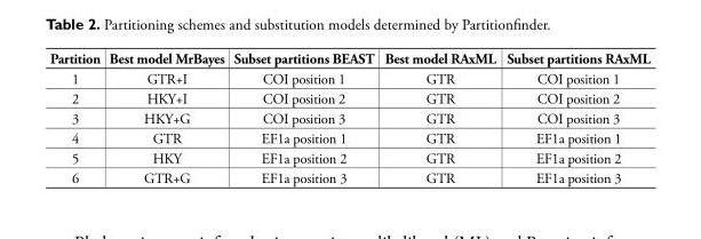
<table><thead><tr><td>Partition</td><td>Best model MrBayes</td><td>Subset partitions BEAST</td><td>Best model RAxML</td><td>Subset partitions RAxML</td></tr></thead><tbody><tr><td>1</td><td>GTR+I</td><td>COI position 1</td><td>GTR</td><td>COI position 1</td></tr><tr><td>2</td><td>HKY+I</td><td>COI position 2</td><td>GTR</td><td>COI position 2</td></tr><tr><td>3</td><td>HKY+G</td><td>COI position 3</td><td>GTR</td><td>COI position 3</td></tr><tr><td>4</td><td>GTR</td><td>EF1a position 1</td><td>GTR</td><td>EF1a position 1</td></tr><tr><td>5</td><td>HKY</td><td>EF1a position 2</td><td>GTR</td><td>EF1a position 2</td></tr><tr><td>6</td><td>GTR+G</td><td>EF1a position 3</td><td>GTR</td><td>EF1a position 3</td></tr></tbody></table>